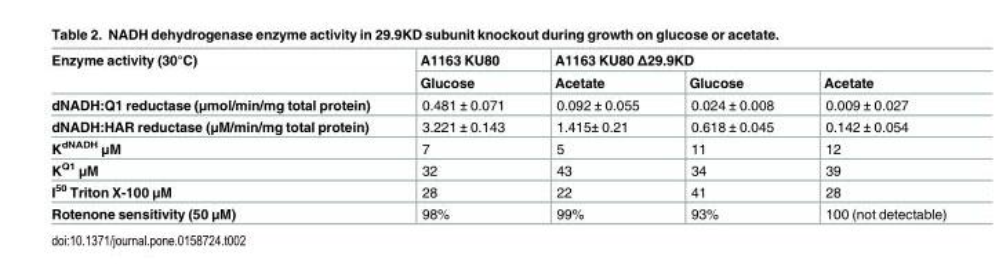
<table><thead><tr><td rowspan="2">Enzyme activity (30°C)</td><td rowspan="2">A1163 KU80 Glucose</td><td colspan="3">A1163 KU80 Δ29.9KD</td></tr><tr><td>Acetate</td><td>Glucose</td><td>Acetate</td></tr></thead><tbody><tr><td>dNADH:Q1 reductase (μmol/min/mg total protein)</td><td>0.481 ± 0.071</td><td>0.092 ± 0.055</td><td>0.024 ± 0.008</td><td>0.009 ± 0.027</td></tr><tr><td>dNADH:HAR reductase (μM/min/mg total protein)</td><td>3.221 ± 0.143</td><td>1.415± 0.21</td><td>0.618 ± 0.045</td><td>0.142 ± 0.054</td></tr><tr><td>K<sup>dNADH</sup> μM</td><td>7</td><td>5</td><td>11</td><td>12</td></tr><tr><td>K<sup>Q1</sup> μM</td><td>32</td><td>43</td><td>34</td><td>39</td></tr><tr><td>I<sup>50</sup> Triton X-100 μM</td><td>28</td><td>22</td><td>41</td><td>28</td></tr><tr><td>Rotenone sensitivity (50 μM)</td><td>98%</td><td>99%</td><td>93%</td><td>100 (not detectable)</td></tr></tbody></table>